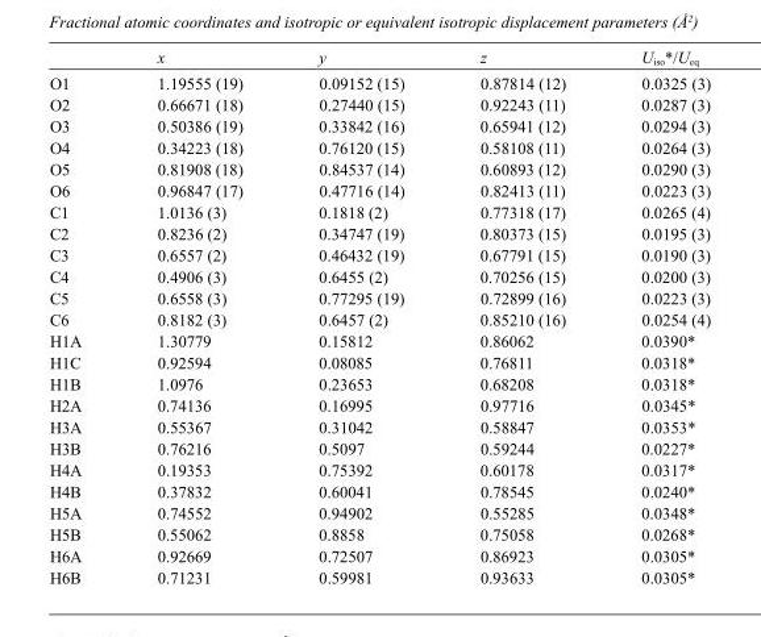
<table><thead><tr><td></td><td>x</td><td>y</td><td>z</td><td>U<sub>iso</sub>*/U<sub>eq</sub></td></tr></thead><tbody><tr><td>O1</td><td>1.19555 (19)</td><td>0.09152 (15)</td><td>0.87814 (12)</td><td>0.0325 (3)</td></tr><tr><td>O2</td><td>0.66671 (18)</td><td>0.27440 (15)</td><td>0.92243 (11)</td><td>0.0287 (3)</td></tr><tr><td>O3</td><td>0.50386 (19)</td><td>0.33842 (16)</td><td>0.65941 (12)</td><td>0.0294 (3)</td></tr><tr><td>O4</td><td>0.34223 (18)</td><td>0.76120 (15)</td><td>0.58108 (11)</td><td>0.0264 (3)</td></tr><tr><td>O5</td><td>0.81908 (18)</td><td>0.84537 (14)</td><td>0.60893 (12)</td><td>0.0290 (3)</td></tr><tr><td>O6</td><td>0.96847 (17)</td><td>0.47716 (14)</td><td>0.82413 (11)</td><td>0.0223 (3)</td></tr><tr><td>C1</td><td>1.0136 (3)</td><td>0.1818 (2)</td><td>0.77318 (17)</td><td>0.0265 (4)</td></tr><tr><td>C2</td><td>0.8236 (2)</td><td>0.34747 (19)</td><td>0.80373 (15)</td><td>0.0195 (3)</td></tr><tr><td>C3</td><td>0.6557 (2)</td><td>0.46432 (19)</td><td>0.67791 (15)</td><td>0.0190 (3)</td></tr><tr><td>C4</td><td>0.4906 (3)</td><td>0.6455 (2)</td><td>0.70256 (15)</td><td>0.0200 (3)</td></tr><tr><td>C5</td><td>0.6558 (3)</td><td>0.77295 (19)</td><td>0.72899 (16)</td><td>0.0223 (3)</td></tr><tr><td>C6</td><td>0.8182 (3)</td><td>0.6457 (2)</td><td>0.85210 (16)</td><td>0.0254 (4)</td></tr><tr><td>H1A</td><td>1.30779</td><td>0.15812</td><td>0.86062</td><td>0.0390*</td></tr><tr><td>H1C</td><td>0.92594</td><td>0.08085</td><td>0.76811</td><td>0.0318*</td></tr><tr><td>H1B</td><td>1.0976</td><td>0.23653</td><td>0.68208</td><td>0.0318*</td></tr><tr><td>H2A</td><td>0.74136</td><td>0.16995</td><td>0.97716</td><td>0.0345*</td></tr><tr><td>H3A</td><td>0.55367</td><td>0.31042</td><td>0.58847</td><td>0.0353*</td></tr><tr><td>H3B</td><td>0.76216</td><td>0.5097</td><td>0.59244</td><td>0.0227*</td></tr><tr><td>H4A</td><td>0.19353</td><td>0.75392</td><td>0.60178</td><td>0.0317*</td></tr><tr><td>H4B</td><td>0.37832</td><td>0.60041</td><td>0.78545</td><td>0.0240*</td></tr><tr><td>H5A</td><td>0.74552</td><td>0.94902</td><td>0.55285</td><td>0.0348*</td></tr><tr><td>H5B</td><td>0.55062</td><td>0.8858</td><td>0.75058</td><td>0.0268*</td></tr><tr><td>H6A</td><td>0.92669</td><td>0.72507</td><td>0.86923</td><td>0.0305*</td></tr><tr><td>H6B</td><td>0.71231</td><td>0.59981</td><td>0.93633</td><td>0.0305*</td></tr></tbody></table>